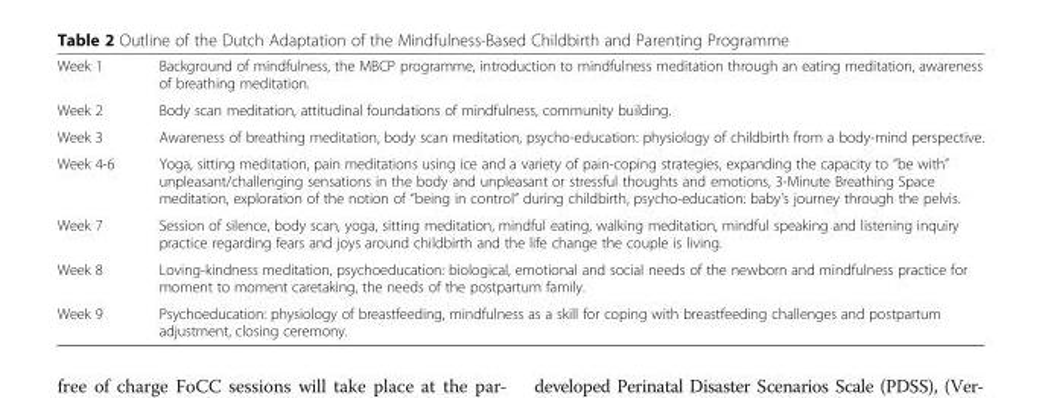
<table><tbody><tr><td>Week 1</td><td>Background of mindfulness, the MBCP programme, introduction to mindfulness meditation through an eating meditation, awareness of breathing meditation.</td></tr><tr><td>Week 2</td><td>Body scan meditation, attitudinal foundations of mindfulness, community building.</td></tr><tr><td>Week 3</td><td>Awareness of breathing meditation, body scan meditation, psycho-education: physiology of childbirth from a body-mind perspective.</td></tr><tr><td>Week 4-6</td><td>Yoga, sitting meditation, pain meditations using ice and a variety of pain-coping strategies, expanding the capacity to “be with” unpleasant/challenging sensations in the body and unpleasant or stressful thoughts and emotions, 3-Minute Breathing Space meditation, exploration of the notion of “being in control” during childbirth, psycho-education: baby&#x27;s journey through the pelvis.</td></tr><tr><td>Week 7</td><td>Session of silence, body scan, yoga, sitting meditation, mindful eating, walking meditation, mindful speaking and listening inquiry practice regarding fears and joys around childbirth and the life change the couple is living.</td></tr><tr><td>Week 8</td><td>Loving-kindness meditation, psychoeducation: biological, emotional and social needs of the newborn and mindfulness practice for moment to moment caretaking, the needs of the postpartum family.</td></tr><tr><td>Week 9</td><td>Psychoeducation: physiology of breastfeeding, mindfulness as a skill for coping with breastfeeding challenges and postpartum adjustment, closing ceremony.</td></tr></tbody></table>